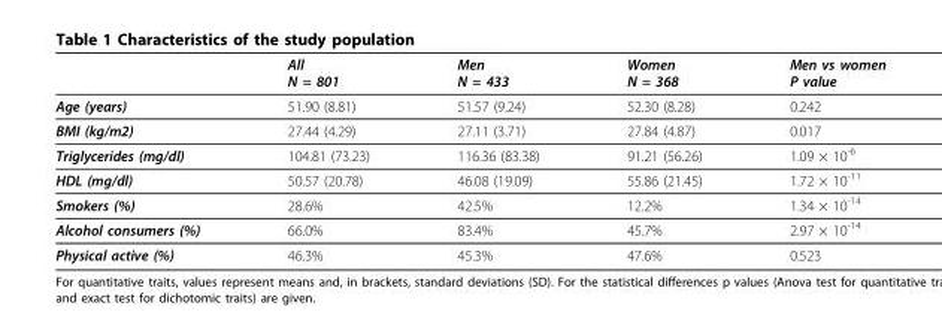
<table><thead><tr><td></td><td>All N = 801</td><td>Men N = 433</td><td>Women N = 368</td><td>Men vs women P value</td></tr></thead><tbody><tr><td>Age (years)</td><td>51.90 (8.81)</td><td>51.57 (9.24)</td><td>52.30 (8.28)</td><td>0.242</td></tr><tr><td>BMI (kg/m2)</td><td>27.44 (4.29)</td><td>27.11 (3.71)</td><td>27.84 (4.87)</td><td>0.017</td></tr><tr><td>Triglycerides (mg/dl)</td><td>104.81 (73.23)</td><td>116.36 (83.38)</td><td>91.21 (56.26)</td><td>1.09 × 10<sup>-6</sup></td></tr><tr><td>HDL (mg/dl)</td><td>50.57 (20.78)</td><td>46.08 (19.09)</td><td>55.86 (21.45)</td><td>1.72 × 10<sup>-11</sup></td></tr><tr><td>Smokers (%)</td><td>28.6%</td><td>42.5%</td><td>12.2%</td><td>1.34 × 10<sup>-14</sup></td></tr><tr><td>Alcohol consumers (%)</td><td>66.0%</td><td>83.4%</td><td>45.7%</td><td>2.97 × 10<sup>-14</sup></td></tr><tr><td>Physical active (%)</td><td>46.3%</td><td>45.3%</td><td>47.6%</td><td>0.523</td></tr></tbody></table>